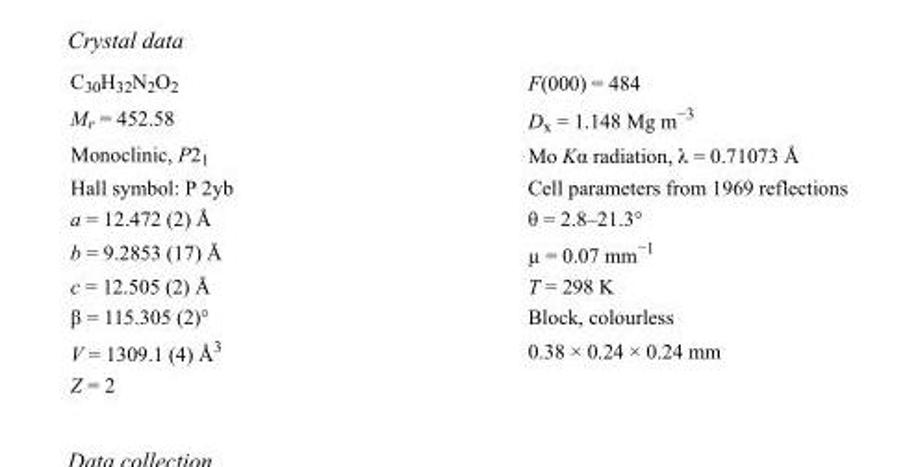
<table><tbody><tr><td>C<sub>30</sub>H<sub>32</sub>N<sub>2</sub>O<sub>2</sub></td><td>F(000) = 484</td></tr><tr><td>M<sub>r</sub> = 452.58</td><td>D<sub>x</sub> = 1.148 Mg m<sup>−3</sup></td></tr><tr><td>Monoclinic, P2<sub>1</sub></td><td>Mo Kα radiation, λ = 0.71073 Å</td></tr><tr><td>Hall symbol: P 2yb</td><td>Cell parameters from 1969 reflections</td></tr><tr><td>a = 12.472 (2) Å</td><td>θ = 2.8–21.3°</td></tr><tr><td>b = 9.2853 (17) Å</td><td>µ = 0.07 mm<sup>−1</sup></td></tr><tr><td>c = 12.505 (2) Å</td><td>T = 298 K</td></tr><tr><td>β = 115.305 (2)°</td><td>Block, colourless</td></tr><tr><td>V = 1309.1 (4) Å<sup>3</sup></td><td>0.38 × 0.24 × 0.24 mm</td></tr><tr><td>Z = 2</td><td></td></tr></tbody></table>